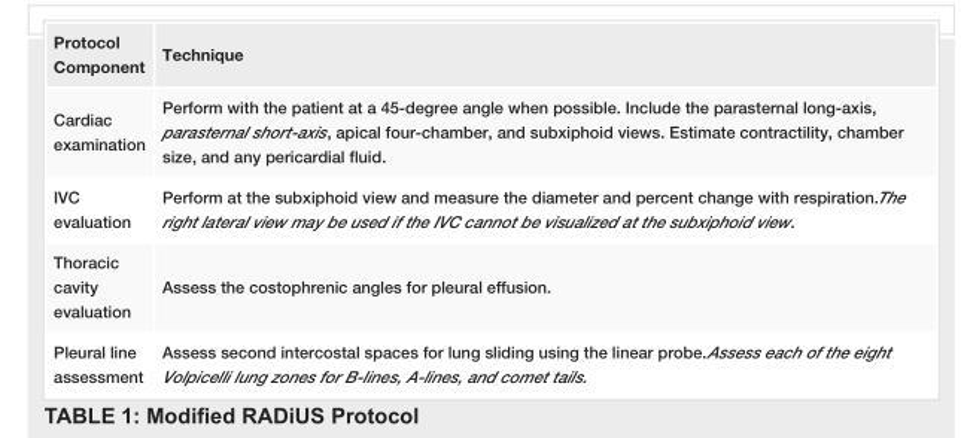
<table><tbody><tr><td>Component</td><td>Technique</td></tr><tr><td>Cardiac examination</td><td>Perform with the patient at a 45-degree angle when possible. Include the parasternal long-axis, parasternal short-axis, apical four-chamber, and subxiphoid views. Estimate contractility, chamber size, and any pericardial fluid.</td></tr><tr><td>IVC evaluation</td><td>Perform at the subxiphoid view and measure the diameter and percent change with respiration. The right lateral view may be used if the IVC cannot be visualized at the subxiphoid view.</td></tr><tr><td>Thoracic cavity evaluation</td><td>Assess the costophrenic angles for pleural effusion.</td></tr><tr><td>Pleural line assessment</td><td>Assess second intercostal spaces for lung sliding using the linear probe. Assess each of the eight Volpicelli lung zones for B-lines, A-lines, and comet tails.</td></tr></tbody></table>